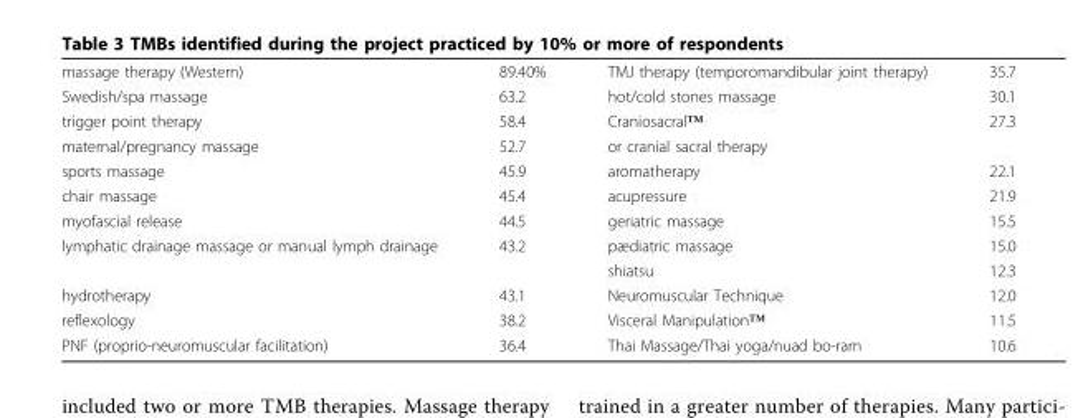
<table><tbody><tr><td>massage therapy (Western)</td><td>89.40%</td><td>TMJ therapy (temporomandibular joint therapy)</td><td>35.7</td></tr><tr><td>Swedish/spa massage</td><td>63.2</td><td>hot/cold stones massage</td><td>30.1</td></tr><tr><td>trigger point therapy</td><td>58.4</td><td>Craniosacral™</td><td>27.3</td></tr><tr><td>maternal/pregnancy massage</td><td>52.7</td><td>or cranial sacral therapy</td><td></td></tr><tr><td>sports massage</td><td>45.9</td><td>aromatherapy</td><td>22.1</td></tr><tr><td>chair massage</td><td>45.4</td><td>acupressure</td><td>21.9</td></tr><tr><td>myofascial release</td><td>44.5</td><td>geriatric massage</td><td>15.5</td></tr><tr><td rowspan="2">lymphatic drainage massage or manual lymph drainage</td><td>43.2</td><td>pædiatric massage</td><td>15.0</td></tr><tr><td></td><td>shiatsu</td><td>12.3</td></tr><tr><td>hydrotherapy</td><td>43.1</td><td>Neuromuscular Technique</td><td>12.0</td></tr><tr><td>reflexology</td><td>38.2</td><td>Visceral Manipulation™</td><td>11.5</td></tr><tr><td>PNF (proprio-neuromuscular facilitation)</td><td>36.4</td><td>Thai Massage/Thai yoga/nuad bo-rarn</td><td>10.6</td></tr></tbody></table>